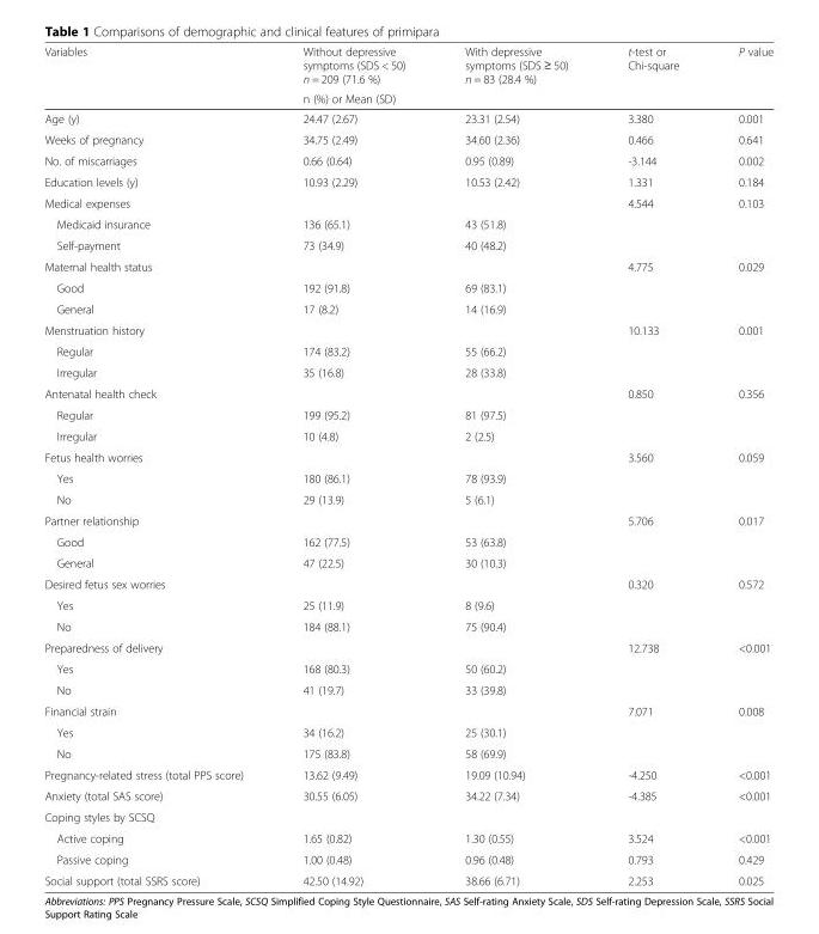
<table><thead><tr><td rowspan="2">Variables</td><td>Without depressive symptoms (SDS &lt; 50) n = 209 (71.6 %)</td><td>With depressive symptoms (SDS ≥ 50) n = 83 (28.4 %)</td><td rowspan="2">t-test or Chi-square</td><td rowspan="2">P value</td></tr><tr><td colspan="2">n (%) or Mean (SD)</td></tr></thead><tbody><tr><td>Age (y)</td><td>24.47 (2.67)</td><td>23.31 (2.54)</td><td>3.380</td><td>0.001</td></tr><tr><td>Weeks of pregnancy</td><td>34.75 (2.49)</td><td>34.60 (2.36)</td><td>0.466</td><td>0.641</td></tr><tr><td>No. of miscarriages</td><td>0.66 (0.64)</td><td>0.95 (0.89)</td><td>-3.144</td><td>0.002</td></tr><tr><td>Education levels (y)</td><td>10.93 (2.29)</td><td>10.53 (2.42)</td><td>1.331</td><td>0.184</td></tr><tr><td>Medical expenses</td><td></td><td></td><td>4.544</td><td>0.103</td></tr><tr><td>Medicaid insurance</td><td>136 (65.1)</td><td>43 (51.8)</td><td></td><td></td></tr><tr><td>Self-payment</td><td>73 (34.9)</td><td>40 (48.2)</td><td></td><td></td></tr><tr><td>Maternal health status</td><td></td><td></td><td>4.775</td><td>0.029</td></tr><tr><td>Good</td><td>192 (91.8)</td><td>69 (83.1)</td><td></td><td></td></tr><tr><td>General</td><td>17 (8.2)</td><td>14 (16.9)</td><td></td><td></td></tr><tr><td>Menstruation history</td><td></td><td></td><td>10.133</td><td>0.001</td></tr><tr><td>Regular</td><td>174 (83.2)</td><td>55 (66.2)</td><td></td><td></td></tr><tr><td>Irregular</td><td>35 (16.8)</td><td>28 (33.8)</td><td></td><td></td></tr><tr><td>Antenatal health check</td><td></td><td></td><td>0.850</td><td>0.356</td></tr><tr><td>Regular</td><td>199 (95.2)</td><td>81 (97.5)</td><td></td><td></td></tr><tr><td>Irregular</td><td>10 (4.8)</td><td>2 (2.5)</td><td></td><td></td></tr><tr><td>Fetus health worries</td><td></td><td></td><td>3.560</td><td>0.059</td></tr><tr><td>Yes</td><td>180 (86.1)</td><td>78 (93.9)</td><td></td><td></td></tr><tr><td>No</td><td>29 (13.9)</td><td>5 (6.1)</td><td></td><td></td></tr><tr><td>Partner relationship</td><td></td><td></td><td>5.706</td><td>0.017</td></tr><tr><td>Good</td><td>162 (77.5)</td><td>53 (63.8)</td><td></td><td></td></tr><tr><td>General</td><td>47 (22.5)</td><td>30 (10.3)</td><td></td><td></td></tr><tr><td>Desired fetus sex worries</td><td></td><td></td><td>0.320</td><td>0.572</td></tr><tr><td>Yes</td><td>25 (11.9)</td><td>8 (9.6)</td><td></td><td></td></tr><tr><td>No</td><td>184 (88.1)</td><td>75 (90.4)</td><td></td><td></td></tr><tr><td>Preparedness of delivery</td><td></td><td></td><td>12.738</td><td>&lt;0.001</td></tr><tr><td>Yes</td><td>168 (80.3)</td><td>50 (60.2)</td><td></td><td></td></tr><tr><td>No</td><td>41 (19.7)</td><td>33 (39.8)</td><td></td><td></td></tr><tr><td>Financial strain</td><td></td><td></td><td>7.071</td><td>0.008</td></tr><tr><td>Yes</td><td>34 (16.2)</td><td>25 (30.1)</td><td></td><td></td></tr><tr><td>No</td><td>175 (83.8)</td><td>58 (69.9)</td><td></td><td></td></tr><tr><td>Pregnancy-related stress (total PPS score)</td><td>13.62 (9.49)</td><td>19.09 (10.94)</td><td>-4.250</td><td>&lt;0.001</td></tr><tr><td>Anxiety (total SAS score)</td><td>30.55 (6.05)</td><td>34.22 (7.34)</td><td>-4.385</td><td>&lt;0.001</td></tr><tr><td colspan="5">Coping styles by SCSQ</td></tr><tr><td>Active coping</td><td>1.65 (0.82)</td><td>1.30 (0.55)</td><td>3.524</td><td>&lt;0.001</td></tr><tr><td>Passive coping</td><td>1.00 (0.48)</td><td>0.96 (0.48)</td><td>0.793</td><td>0.429</td></tr><tr><td>Social support (total SSRS score)</td><td>42.50 (14.92)</td><td>38.66 (6.71)</td><td>2.253</td><td>0.025</td></tr></tbody></table>